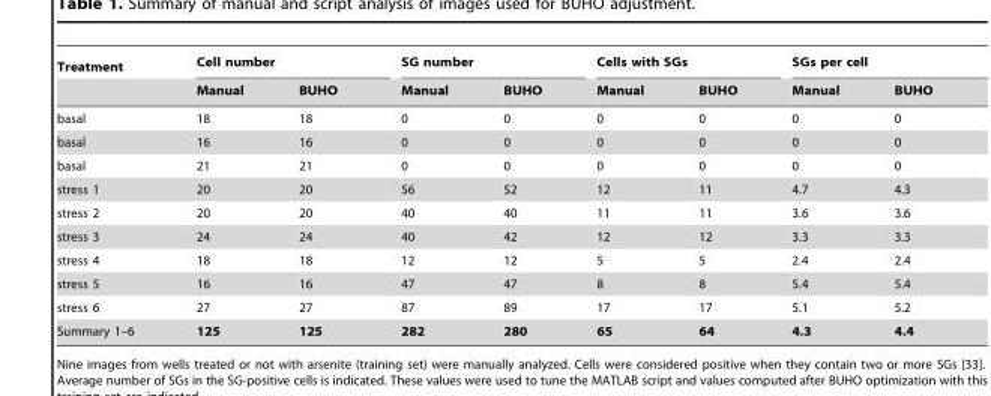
<table><thead><tr><td rowspan="2">Treatment</td><td colspan="2">Cell number</td><td colspan="2">SG number</td><td colspan="2">Cells with SGs</td><td colspan="2">SGs per cell</td></tr><tr><td>Manual</td><td>BUHO</td><td>Manual</td><td>BUHO</td><td>Manual</td><td>BUHO</td><td>Manual</td><td>BUHO</td></tr></thead><tbody><tr><td>basal</td><td>18</td><td>18</td><td>0</td><td>0</td><td>0</td><td>0</td><td>0</td><td>0</td></tr><tr><td>basal</td><td>16</td><td>16</td><td>0</td><td>0</td><td>0</td><td>0</td><td>0</td><td>0</td></tr><tr><td>basal</td><td>21</td><td>21</td><td>0</td><td>0</td><td>0</td><td>0</td><td>0</td><td>0</td></tr><tr><td>stress 1</td><td>20</td><td>20</td><td>56</td><td>52</td><td>12</td><td>11</td><td>4.7</td><td>4.3</td></tr><tr><td>stress 2</td><td>20</td><td>20</td><td>40</td><td>40</td><td>11</td><td>11</td><td>3.6</td><td>3.6</td></tr><tr><td>stress 3</td><td>24</td><td>24</td><td>40</td><td>42</td><td>12</td><td>12</td><td>3.3</td><td>3.3</td></tr><tr><td>stress 4</td><td>18</td><td>18</td><td>12</td><td>12</td><td>5</td><td>5</td><td>2.4</td><td>2.4</td></tr><tr><td>stress 5</td><td>16</td><td>16</td><td>47</td><td>47</td><td>8</td><td>8</td><td>5.4</td><td>5.4</td></tr><tr><td>stress 6</td><td>27</td><td>27</td><td>87</td><td>89</td><td>17</td><td>17</td><td>5.1</td><td>5.2</td></tr><tr><td>Summary 1–6</td><td>125</td><td>125</td><td>282</td><td>280</td><td>65</td><td>64</td><td>4.3</td><td>4.4</td></tr></tbody></table>